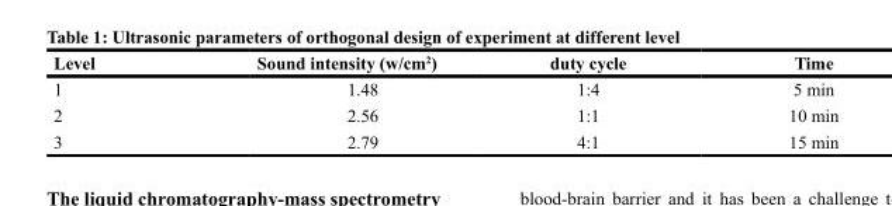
<table><thead><tr><td>Level</td><td>Sound intensity (w/cm<sup>2</sup>)</td><td>duty cycle</td><td>Time</td></tr></thead><tbody><tr><td>1</td><td>1.48</td><td>1:4</td><td>5 min</td></tr><tr><td>2</td><td>2.56</td><td>1:1</td><td>10 min</td></tr><tr><td>3</td><td>2.79</td><td>4:1</td><td>15 min</td></tr></tbody></table>